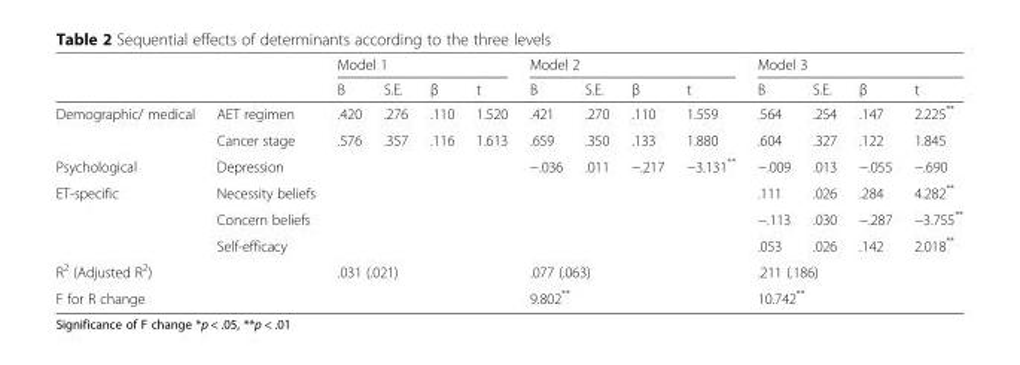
<table><thead><tr><td rowspan="2"></td><td rowspan="2"></td><td colspan="4">Model 1</td><td colspan="4">Model 2</td><td colspan="4">Model 3</td></tr><tr><td>B</td><td>S.E.</td><td>β</td><td>t</td><td>B</td><td>S.E.</td><td>β</td><td>t</td><td>B</td><td>S.E.</td><td>β</td><td>t</td></tr></thead><tbody><tr><td rowspan="2">Demographic/ medical</td><td>AET regimen</td><td>.420</td><td>.276</td><td>.110</td><td>1.520</td><td>.421</td><td>.270</td><td>.110</td><td>1.559</td><td>.564</td><td>.254</td><td>.147</td><td>2.225**</td></tr><tr><td>Cancer stage</td><td>.576</td><td>.357</td><td>.116</td><td>1.613</td><td>.659</td><td>.350</td><td>.133</td><td>1.880</td><td>.604</td><td>.327</td><td>.122</td><td>1.845</td></tr><tr><td>Psychological</td><td>Depression</td><td></td><td></td><td></td><td></td><td>−.036</td><td>.011</td><td>−.217</td><td>−3.131**</td><td>−.009</td><td>.013</td><td>−.055</td><td>−.690</td></tr><tr><td rowspan="3">ET-specific</td><td>Necessity beliefs</td><td></td><td></td><td></td><td></td><td></td><td></td><td></td><td></td><td>.111</td><td>.026</td><td>.284</td><td>4.282**</td></tr><tr><td>Concern beliefs</td><td></td><td></td><td></td><td></td><td></td><td></td><td></td><td></td><td>−.113</td><td>.030</td><td>−.287</td><td>−3.755**</td></tr><tr><td>Self-efficacy</td><td></td><td></td><td></td><td></td><td></td><td></td><td></td><td></td><td>.053</td><td>.026</td><td>.142</td><td>2.018**</td></tr><tr><td colspan="2">R<sup>2</sup> (Adjusted R<sup>2</sup>)</td><td colspan="4">.031 (.021)</td><td colspan="4">.077 (.063)</td><td colspan="4">.211 (.186)</td></tr><tr><td colspan="2">F for R change</td><td colspan="4"></td><td colspan="4">9.802**</td><td colspan="4">10.742**</td></tr></tbody></table>